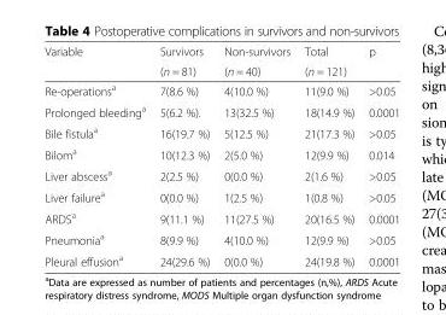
<table><thead><tr><td rowspan="2">Variable</td><td rowspan="2">Survivors (n = 81)</td><td rowspan="2">Non-survivors (n = 40)</td><td rowspan="2">Total (n = 121)</td><td rowspan="2">p</td></tr><tr></tr></thead><tbody><tr><td>Re-operations<sup>a</sup></td><td>7(8.6 %)</td><td>4(10.0 %)</td><td>11(9.0 %)</td><td>&gt;0.05</td></tr><tr><td>Prolonged bleeding<sup>a</sup></td><td>5(6.2 %).</td><td>13(32.5 %)</td><td>18(14.9 %)</td><td>0.0001</td></tr><tr><td>Bile fistula<sup>a</sup></td><td>16(19.7 %)</td><td>5(12.5 %)</td><td>21(17.3 %)</td><td>&gt;0.05</td></tr><tr><td>Bilom<sup>a</sup></td><td>10(12.3 %)</td><td>2(5.0 %)</td><td>12(9.9 %)</td><td>0.014</td></tr><tr><td>Liver abscess<sup>a</sup></td><td>2(2.5 %)</td><td>0(0.0 %)</td><td>2(1.6 %)</td><td>&gt;0.05</td></tr><tr><td>Liver failure<sup>a</sup></td><td>0(0.0 %)</td><td>1(2.5 %)</td><td>1(0.8 %)</td><td>&gt;0.05</td></tr><tr><td>ARDS<sup>a</sup></td><td>9(11.1 %)</td><td>11(27.5 %)</td><td>20(16.5 %)</td><td>0.0001</td></tr><tr><td>Pneumonia<sup>a</sup></td><td>8(9.9 %)</td><td>4(10.0 %)</td><td>12(9.9 %)</td><td>&gt;0.05</td></tr><tr><td>Pleural effusion<sup>a</sup></td><td>24(29.6 %)</td><td>0(0.0 %)</td><td>24(19.8 %)</td><td>0.0001</td></tr></tbody></table>